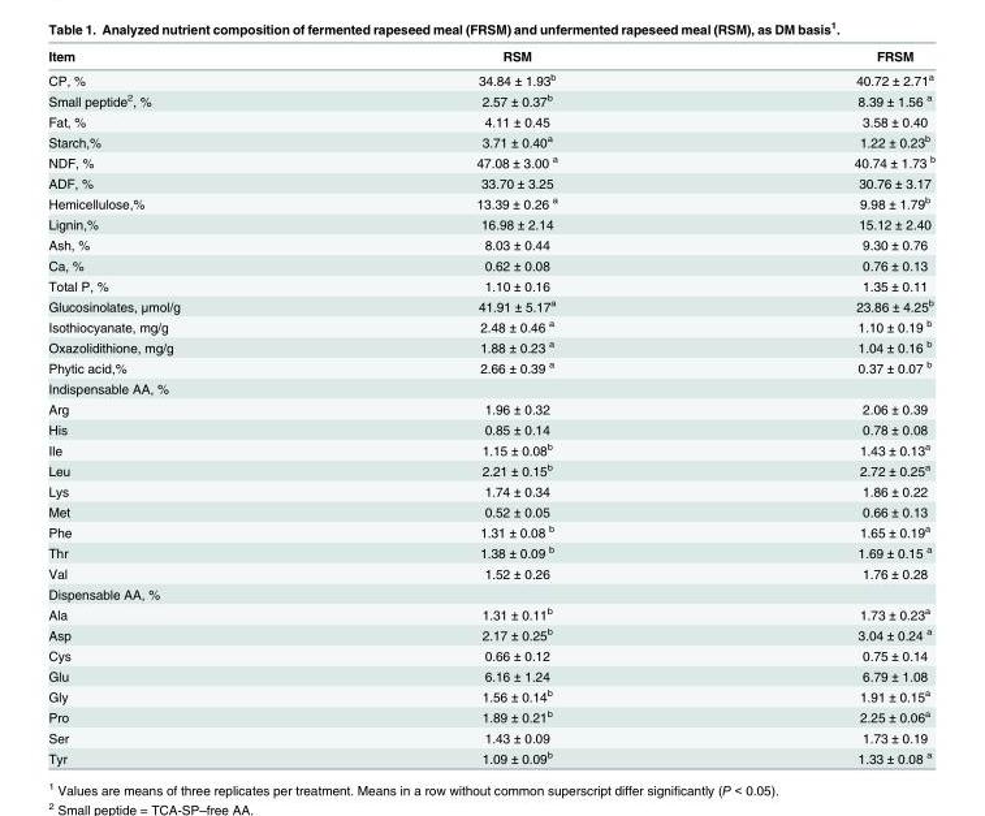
<table><thead><tr><td>Item</td><td>RSM</td><td>FRSM</td></tr></thead><tbody><tr><td>CP, %</td><td>34.84 ± 1.93<sup>b</sup></td><td>40.72 ± 2.71<sup>a</sup></td></tr><tr><td>Small peptide<sup>2</sup>, %</td><td>2.57 ± 0.37<sup>b</sup></td><td>8.39 ± 1.56 <sup>a</sup></td></tr><tr><td>Fat, %</td><td>4.11 ± 0.45</td><td>3.58 ± 0.40</td></tr><tr><td>Starch,%</td><td>3.71 ± 0.40<sup>a</sup></td><td>1.22 ± 0.23<sup>b</sup></td></tr><tr><td>NDF, %</td><td>47.08 ± 3.00 <sup>a</sup></td><td>40.74 ± 1.73 <sup>b</sup></td></tr><tr><td>ADF, %</td><td>33.70 ± 3.25</td><td>30.76 ± 3.17</td></tr><tr><td>Hemicellulose,%</td><td>13.39 ± 0.26 <sup>a</sup></td><td>9.98 ± 1.79<sup>b</sup></td></tr><tr><td>Lignin,%</td><td>16.98 ± 2.14</td><td>15.12 ± 2.40</td></tr><tr><td>Ash, %</td><td>8.03 ± 0.44</td><td>9.30 ± 0.76</td></tr><tr><td>Ca, %</td><td>0.62 ± 0.08</td><td>0.76 ± 0.13</td></tr><tr><td>Total P, %</td><td>1.10 ± 0.16</td><td>1.35 ± 0.11</td></tr><tr><td>Glucosinolates, μmol/g</td><td>41.91 ± 5.17<sup>a</sup></td><td>23.86 ± 4.25<sup>b</sup></td></tr><tr><td>Isothiocyanate, mg/g</td><td>2.48 ± 0.46 <sup>a</sup></td><td>1.10 ± 0.19 <sup>b</sup></td></tr><tr><td>Oxazolidithione, mg/g</td><td>1.88 ± 0.23 <sup>a</sup></td><td>1.04 ± 0.16 <sup>b</sup></td></tr><tr><td>Phytic acid,%</td><td>2.66 ± 0.39 <sup>a</sup></td><td>0.37 ± 0.07 <sup>b</sup></td></tr><tr><td colspan="3">Indispensable AA, %</td></tr><tr><td>Arg</td><td>1.96 ± 0.32</td><td>2.06 ± 0.39</td></tr><tr><td>His</td><td>0.85 ± 0.14</td><td>0.78 ± 0.08</td></tr><tr><td>Ile</td><td>1.15 ± 0.08<sup>b</sup></td><td>1.43 ± 0.13<sup>a</sup></td></tr><tr><td>Leu</td><td>2.21 ± 0.15<sup>b</sup></td><td>2.72 ± 0.25<sup>a</sup></td></tr><tr><td>Lys</td><td>1.74 ± 0.34</td><td>1.86 ± 0.22</td></tr><tr><td>Met</td><td>0.52 ± 0.05</td><td>0.66 ± 0.13</td></tr><tr><td>Phe</td><td>1.31 ± 0.08 <sup>b</sup></td><td>1.65 ± 0.19<sup>a</sup></td></tr><tr><td>Thr</td><td>1.38 ± 0.09 <sup>b</sup></td><td>1.69 ± 0.15 <sup>a</sup></td></tr><tr><td>Val</td><td>1.52 ± 0.26</td><td>1.76 ± 0.28</td></tr><tr><td colspan="3">Dispensable AA, %</td></tr><tr><td>Ala</td><td>1.31 ± 0.11<sup>b</sup></td><td>1.73 ± 0.23<sup>a</sup></td></tr><tr><td>Asp</td><td>2.17 ± 0.25<sup>b</sup></td><td>3.04 ± 0.24 <sup>a</sup></td></tr><tr><td>Cys</td><td>0.66 ± 0.12</td><td>0.75 ± 0.14</td></tr><tr><td>Glu</td><td>6.16 ± 1.24</td><td>6.79 ± 1.08</td></tr><tr><td>Gly</td><td>1.56 ± 0.14<sup>b</sup></td><td>1.91 ± 0.15<sup>a</sup></td></tr><tr><td>Pro</td><td>1.89 ± 0.21<sup>b</sup></td><td>2.25 ± 0.06<sup>a</sup></td></tr><tr><td>Ser</td><td>1.43 ± 0.09</td><td>1.73 ± 0.19</td></tr><tr><td>Tyr</td><td>1.09 ± 0.09<sup>b</sup></td><td>1.33 ± 0.08 <sup>a</sup></td></tr></tbody></table>